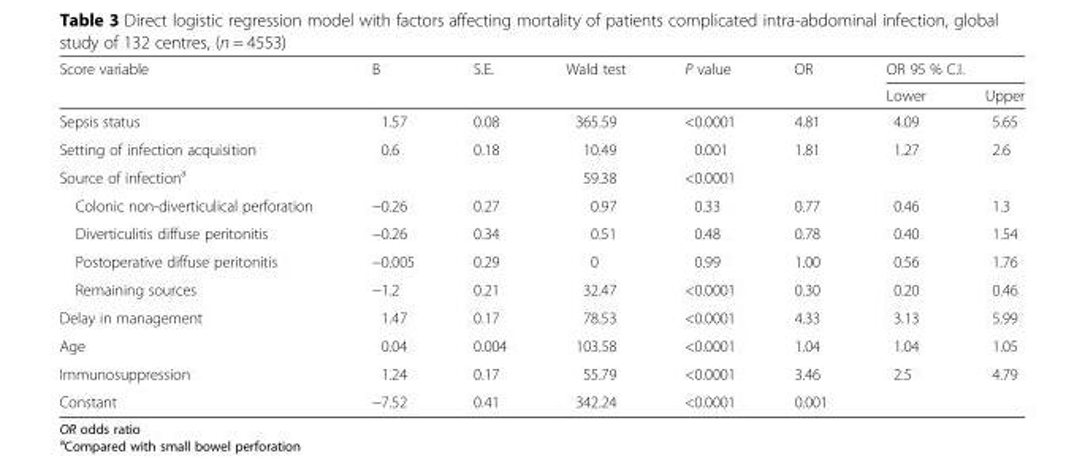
<table><thead><tr><td rowspan="2">Score variable</td><td rowspan="2">B</td><td rowspan="2">S.E.</td><td rowspan="2">Wald test</td><td rowspan="2">P value</td><td rowspan="2">OR</td><td colspan="2">OR 95 % C.I.</td></tr><tr><td>Lower</td><td>Upper</td></tr></thead><tbody><tr><td>Sepsis status</td><td>1.57</td><td>0.08</td><td>365.59</td><td>&lt;0.0001</td><td>4.81</td><td>4.09</td><td>5.65</td></tr><tr><td>Setting of infection acquisition</td><td>0.6</td><td>0.18</td><td>10.49</td><td>0.001</td><td>1.81</td><td>1.27</td><td>2.6</td></tr><tr><td>Source of infection<sup>a</sup></td><td></td><td></td><td>59.38</td><td>&lt;0.0001</td><td></td><td></td><td></td></tr><tr><td>Colonic non-diverticulical perforation</td><td>−0.26</td><td>0.27</td><td>0.97</td><td>0.33</td><td>0.77</td><td>0.46</td><td>1.3</td></tr><tr><td>Diverticulitis diffuse peritonitis</td><td>−0.26</td><td>0.34</td><td>0.51</td><td>0.48</td><td>0.78</td><td>0.40</td><td>1.54</td></tr><tr><td>Postoperative diffuse peritonitis</td><td>−0.005</td><td>0.29</td><td>0</td><td>0.99</td><td>1.00</td><td>0.56</td><td>1.76</td></tr><tr><td>Remaining sources</td><td>−1.2</td><td>0.21</td><td>32.47</td><td>&lt;0.0001</td><td>0.30</td><td>0.20</td><td>0.46</td></tr><tr><td>Delay in management</td><td>1.47</td><td>0.17</td><td>78.53</td><td>&lt;0.0001</td><td>4.33</td><td>3.13</td><td>5.99</td></tr><tr><td>Age</td><td>0.04</td><td>0.004</td><td>103.58</td><td>&lt;0.0001</td><td>1.04</td><td>1.04</td><td>1.05</td></tr><tr><td>Immunosuppression</td><td>1.24</td><td>0.17</td><td>55.79</td><td>&lt;0.0001</td><td>3.46</td><td>2.5</td><td>4.79</td></tr><tr><td>Constant</td><td>−7.52</td><td>0.41</td><td>342.24</td><td>&lt;0.0001</td><td>0.001</td><td></td><td></td></tr></tbody></table>